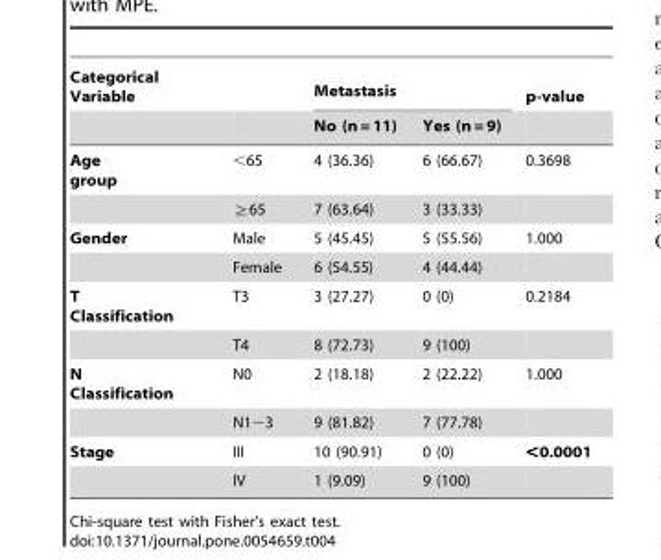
<table><thead><tr><td colspan="2">Categorical Variable</td><td colspan="2">Metastasis</td><td rowspan="2">p-value</td></tr><tr><td></td><td></td><td>No (n = 11)</td><td>Yes (n = 9)</td></tr></thead><tbody><tr><td rowspan="2">Age group</td><td>&lt;65</td><td>4 (36.36)</td><td>6 (66.67)</td><td>0.3698</td></tr><tr><td>≧65</td><td>7 (63.64)</td><td>3 (33.33)</td><td></td></tr><tr><td rowspan="2">Gender</td><td>Male</td><td>5 (45.45)</td><td>5 (55.56)</td><td>1.000</td></tr><tr><td>Female</td><td>6 (54.55)</td><td>4 (44.44)</td><td></td></tr><tr><td rowspan="2">T Classification</td><td>T3</td><td>3 (27.27)</td><td>0 (0)</td><td>0.2184</td></tr><tr><td>T4</td><td>8 (72.73)</td><td>9 (100)</td><td></td></tr><tr><td rowspan="2">N Classification</td><td>N0</td><td>2 (18.18)</td><td>2 (22.22)</td><td>1.000</td></tr><tr><td>N1∼3</td><td>9 (81.82)</td><td>7 (77.78)</td><td></td></tr><tr><td rowspan="2">Stage</td><td>III</td><td>10 (90.91)</td><td>0 (0)</td><td>&lt;0.0001</td></tr><tr><td>IV</td><td>1 (9.09)</td><td>9 (100)</td><td></td></tr></tbody></table>